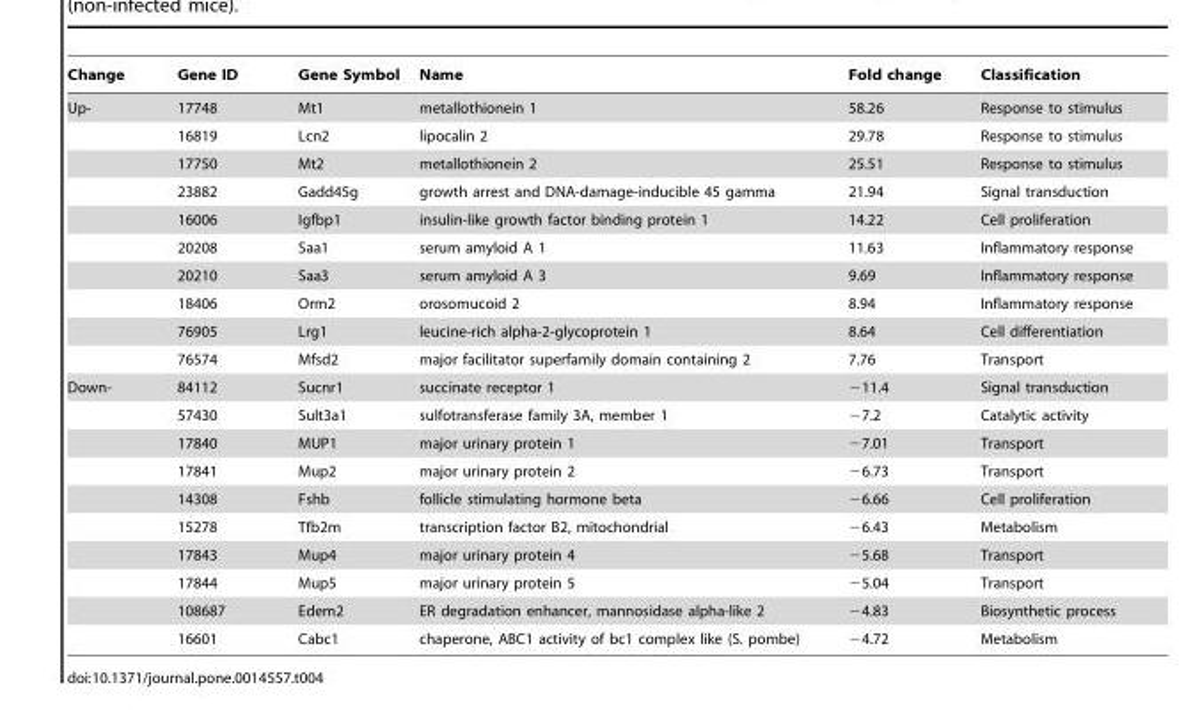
<table><thead><tr><td>Change</td><td>Gene ID</td><td>Gene Symbol</td><td>Name</td><td>Fold change</td><td>Classification</td></tr></thead><tbody><tr><td rowspan="10">Up-</td><td>17748</td><td>Mt1</td><td>metallothionein 1</td><td>58.26</td><td>Response to stimulus</td></tr><tr><td>16819</td><td>Lcn2</td><td>lipocalin 2</td><td>29.78</td><td>Response to stimulus</td></tr><tr><td>17750</td><td>Mt2</td><td>metallothionein 2</td><td>25.51</td><td>Response to stimulus</td></tr><tr><td>23882</td><td>Gadd45g</td><td>growth arrest and DNA-damage-inducible 45 gamma</td><td>21.94</td><td>Signal transduction</td></tr><tr><td>16006</td><td>Igfbp1</td><td>insulin-like growth factor binding protein 1</td><td>14.22</td><td>Cell proliferation</td></tr><tr><td>20208</td><td>Saa1</td><td>serum amyloid A 1</td><td>11.63</td><td>Inflammatory response</td></tr><tr><td>20210</td><td>Saa3</td><td>serum amyloid A 3</td><td>9.69</td><td>Inflammatory response</td></tr><tr><td>18406</td><td>Orm2</td><td>orosomucoid 2</td><td>8.94</td><td>Inflammatory response</td></tr><tr><td>76905</td><td>Lrg1</td><td>leucine-rich alpha-2-glycoprotein 1</td><td>8.64</td><td>Cell differentiation</td></tr><tr><td>76574</td><td>Mfsd2</td><td>major facilitator superfamily domain containing 2</td><td>7.76</td><td>Transport</td></tr><tr><td rowspan="10">Down-</td><td>84112</td><td>Sucnr1</td><td>succinate receptor 1</td><td>−11.4</td><td>Signal transduction</td></tr><tr><td>57430</td><td>Sult3a1</td><td>sulfotransferase family 3A, member 1</td><td>−7.2</td><td>Catalytic activity</td></tr><tr><td>17840</td><td>MUP1</td><td>major urinary protein 1</td><td>−7.01</td><td>Transport</td></tr><tr><td>17841</td><td>Mup2</td><td>major urinary protein 2</td><td>−6.73</td><td>Transport</td></tr><tr><td>14308</td><td>Fshb</td><td>follicle stimulating hormone beta</td><td>−6.66</td><td>Cell proliferation</td></tr><tr><td>15278</td><td>Tfb2m</td><td>transcription factor B2, mitochondrial</td><td>−6.43</td><td>Metabolism</td></tr><tr><td>17843</td><td>Mup4</td><td>major urinary protein 4</td><td>−5.68</td><td>Transport</td></tr><tr><td>17844</td><td>Mup5</td><td>major urinary protein 5</td><td>−5.04</td><td>Transport</td></tr><tr><td>108687</td><td>Edem2</td><td>ER degradation enhancer, mannosidase alpha-like 2</td><td>−4.83</td><td>Biosynthetic process</td></tr><tr><td>16601</td><td>Cabc1</td><td>chaperone, ABC1 activity of bc1 complex like (S. pombe)</td><td>−4.72</td><td>Metabolism</td></tr></tbody></table>